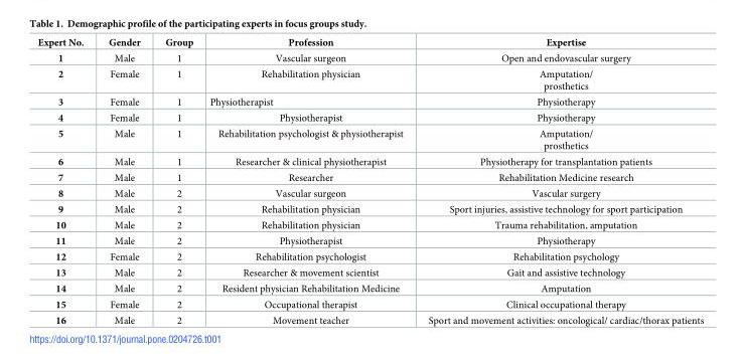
<table><thead><tr><td>Expert No.</td><td>Gender</td><td>Group</td><td>Profession</td><td>Expertise</td></tr></thead><tbody><tr><td>1</td><td>Male</td><td>1</td><td>Vascular surgeon</td><td>Open and endovascular surgery</td></tr><tr><td>2</td><td>Female</td><td>1</td><td>Rehabilitation physician</td><td>Amputation/ prosthetics</td></tr><tr><td>3</td><td>Female</td><td>1</td><td>Physiotherapist</td><td>Physiotherapy</td></tr><tr><td>4</td><td>Female</td><td>1</td><td>Physiotherapist</td><td>Physiotherapy</td></tr><tr><td>5</td><td>Male</td><td>1</td><td>Rehabilitation psychologist &amp; physiotherapist</td><td>Amputation/ prosthetics</td></tr><tr><td>6</td><td>Male</td><td>1</td><td>Researcher &amp; clinical physiotherapist</td><td>Physiotherapy for transplantation patients</td></tr><tr><td>7</td><td>Male</td><td>1</td><td>Researcher</td><td>Rehabilitation Medicine research</td></tr><tr><td>8</td><td>Male</td><td>2</td><td>Vascular surgeon</td><td>Vascular surgery</td></tr><tr><td>9</td><td>Male</td><td>2</td><td>Rehabilitation physician</td><td>Sport injuries, assistive technology for sport participation</td></tr><tr><td>10</td><td>Male</td><td>2</td><td>Rehabilitation physician</td><td>Trauma rehabilitation, amputation</td></tr><tr><td>11</td><td>Male</td><td>2</td><td>Physiotherapist</td><td>Physiotherapy</td></tr><tr><td>12</td><td>Female</td><td>2</td><td>Rehabilitation psychologist</td><td>Rehabilitation psychology</td></tr><tr><td>13</td><td>Male</td><td>2</td><td>Researcher &amp; movement scientist</td><td>Gait and assistive technology</td></tr><tr><td>14</td><td>Male</td><td>2</td><td>Resident physician Rehabilitation Medicine</td><td>Amputation</td></tr><tr><td>15</td><td>Female</td><td>2</td><td>Occupational therapist</td><td>Clinical occupational therapy</td></tr><tr><td>16</td><td>Male</td><td>2</td><td>Movement teacher</td><td>Sport and movement activities: oncological/ cardiac/thorax patients</td></tr></tbody></table>